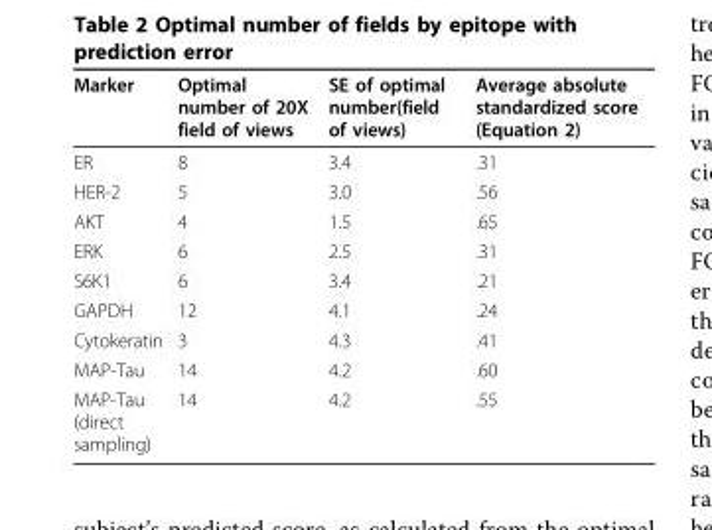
<table><thead><tr><td>Marker</td><td>Optimal number of 20X field of views</td><td>SE of optimal number(field of views)</td><td>Average absolute standardized score (Equation 2)</td></tr></thead><tbody><tr><td>ER</td><td>8</td><td>3.4</td><td>.31</td></tr><tr><td>HER-2</td><td>5</td><td>3.0</td><td>.56</td></tr><tr><td>AKT</td><td>4</td><td>1.5</td><td>.65</td></tr><tr><td>ERK</td><td>6</td><td>2.5</td><td>.31</td></tr><tr><td>S6K1</td><td>6</td><td>3.4</td><td>.21</td></tr><tr><td>GAPDH</td><td>12</td><td>4.1</td><td>.24</td></tr><tr><td>Cytokeratin</td><td>3</td><td>4.3</td><td>.41</td></tr><tr><td>MAP-Tau</td><td>14</td><td>4.2</td><td>.60</td></tr><tr><td>MAP-Tau (direct sampling)</td><td>14</td><td>4.2</td><td>.55</td></tr></tbody></table>